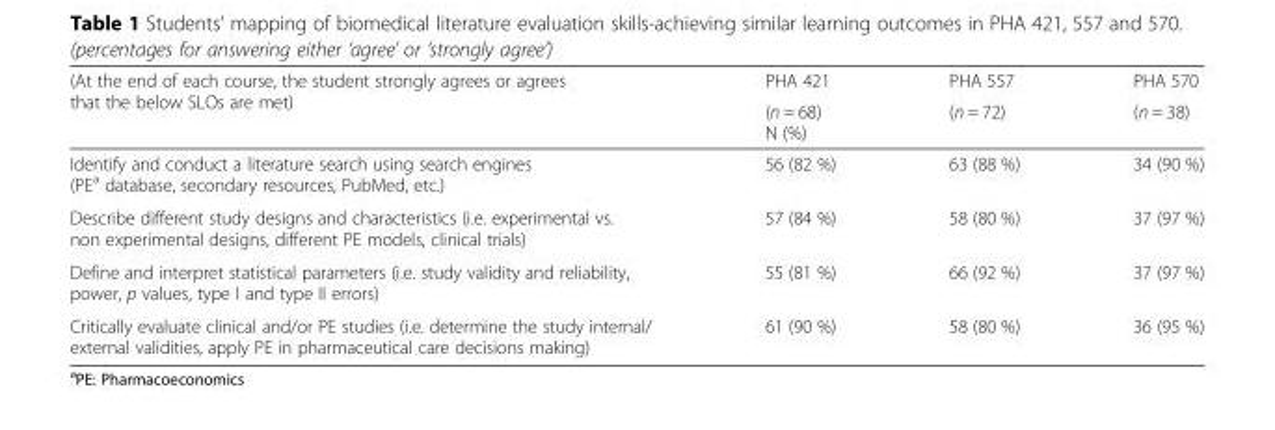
<table><thead><tr><td rowspan="2">(At the end of each course, the student strongly agrees or agrees that the below SLOs are met)</td><td rowspan="2">PHA 421 (n = 68) N (%)</td><td rowspan="2">PHA 557 (n = 72)</td><td rowspan="2">PHA 570 (n = 38)</td></tr><tr></tr></thead><tbody><tr><td>Identify and conduct a literature search using search engines (PE<sup>a</sup> database, secondary resources, PubMed, etc.)</td><td>56 (82 %)</td><td>63 (88 %)</td><td>34 (90 %)</td></tr><tr><td>Describe different study designs and characteristics (i.e. experimental vs. non experimental designs, different PE models, clinical trials)</td><td>57 (84 %)</td><td>58 (80 %)</td><td>37 (97 %)</td></tr><tr><td>Define and interpret statistical parameters (i.e. study validity and reliability, power, p values, type I and type II errors)</td><td>55 (81 %)</td><td>66 (92 %)</td><td>37 (97 %)</td></tr><tr><td>Critically evaluate clinical and/or PE studies (i.e. determine the study internal/ external validities, apply PE in pharmaceutical care decisions making)</td><td>61 (90 %)</td><td>58 (80 %)</td><td>36 (95 %)</td></tr></tbody></table>